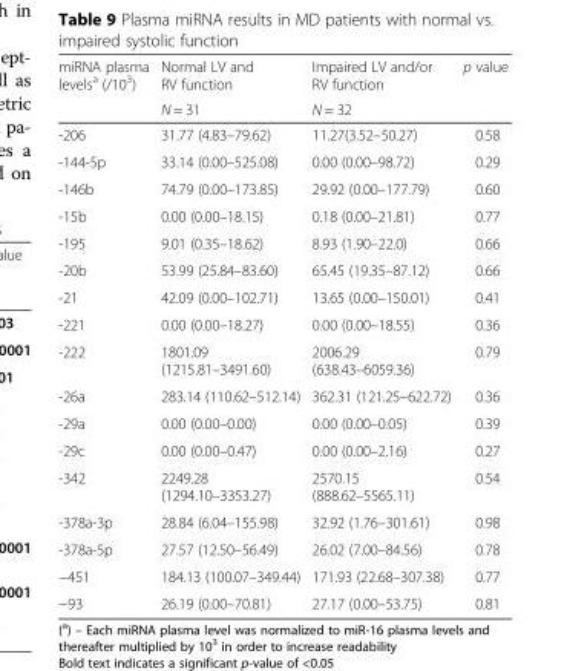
<table><thead><tr><td rowspan="2">miRNA plasma levels<sup>a</sup> (/10<sup>3</sup>)</td><td rowspan="2">Normal LV and RV function N = 31</td><td rowspan="2">Impaired LV and/or RV function N = 32</td><td rowspan="2">p value</td></tr><tr></tr></thead><tbody><tr><td>-206</td><td>31.77 (4.83–79.62)</td><td>11.27(3.52–50.27)</td><td>0.58</td></tr><tr><td>-144-5p</td><td>33.14 (0.00–525.08)</td><td>0.00 (0.00–98.72)</td><td>0.29</td></tr><tr><td>-146b</td><td>74.79 (0.00–173.85)</td><td>29.92 (0.00–177.79)</td><td>0.60</td></tr><tr><td>-15b</td><td>0.00 (0.00–18.15)</td><td>0.18 (0.00–21.81)</td><td>0.77</td></tr><tr><td>-195</td><td>9.01 (0.35–18.62)</td><td>8.93 (1.90–22.0)</td><td>0.66</td></tr><tr><td>-20b</td><td>53.99 (25.84–83.60)</td><td>65.45 (19.35–87.12)</td><td>0.66</td></tr><tr><td>-21</td><td>42.09 (0.00–102.71)</td><td>13.65 (0.00–150.01)</td><td>0.41</td></tr><tr><td>-221</td><td>0.00 (0.00–18.27)</td><td>0.00 (0.00–18.55)</td><td>0.36</td></tr><tr><td>-222</td><td>1801.09 (1215.81–3491.60)</td><td>2006.29 (638.43–6059.36)</td><td>0.79</td></tr><tr><td>-26a</td><td>283.14 (110.62–512.14)</td><td>362.31 (121.25–622.72)</td><td>0.36</td></tr><tr><td>-29a</td><td>0.00 (0.00–0.00)</td><td>0.00 (0.00–0.05)</td><td>0.39</td></tr><tr><td>-29c</td><td>0.00 (0.00–0.47)</td><td>0.00 (0.00–2.16)</td><td>0.27</td></tr><tr><td>-342</td><td>2249.28 (1294.10–3353.27)</td><td>2570.15 (888.62–5565.11)</td><td>0.54</td></tr><tr><td>-378a-3p</td><td>28.84 (6.04–155.98)</td><td>32.92 (1.76–301.61)</td><td>0.98</td></tr><tr><td>-378a-5p</td><td>27.57 (12.50–56.49)</td><td>26.02 (7.00–84.56)</td><td>0.78</td></tr><tr><td>−451</td><td>184.13 (100.07–349.44)</td><td>171.93 (22.68–307.38)</td><td>0.77</td></tr><tr><td>−93</td><td>26.19 (0.00–70.81)</td><td>27.17 (0.00–53.75)</td><td>0.81</td></tr></tbody></table>